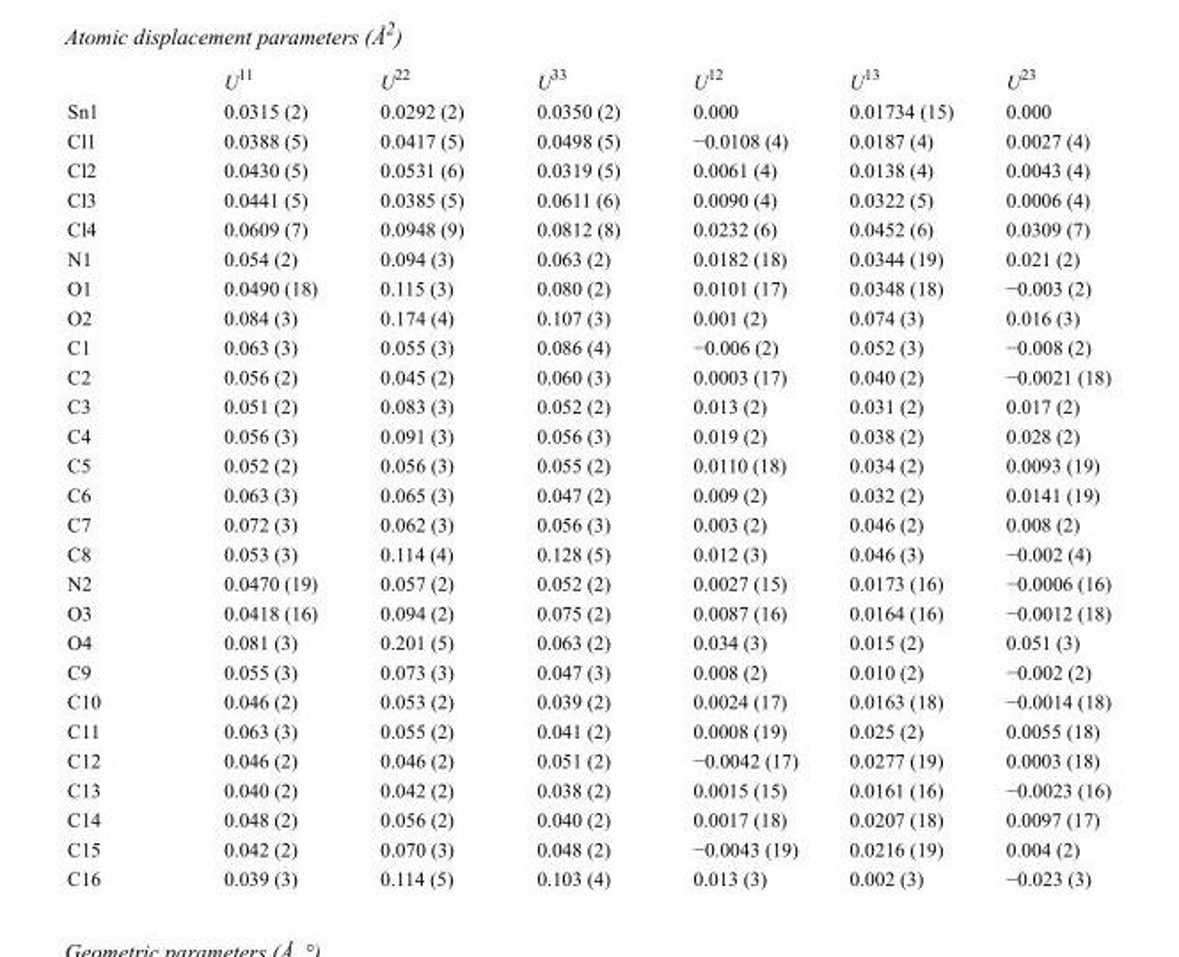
<table><thead><tr><td></td><td>U<sup>11</sup></td><td>U<sup>22</sup></td><td>U<sup>33</sup></td><td>U<sup>12</sup></td><td>U<sup>13</sup></td><td>U<sup>23</sup></td></tr></thead><tbody><tr><td>Sn1</td><td>0.0315 (2)</td><td>0.0292 (2)</td><td>0.0350 (2)</td><td>0.000</td><td>0.01734 (15)</td><td>0.000</td></tr><tr><td>Cl1</td><td>0.0388 (5)</td><td>0.0417 (5)</td><td>0.0498 (5)</td><td>−0.0108 (4)</td><td>0.0187 (4)</td><td>0.0027 (4)</td></tr><tr><td>Cl2</td><td>0.0430 (5)</td><td>0.0531 (6)</td><td>0.0319 (5)</td><td>0.0061 (4)</td><td>0.0138 (4)</td><td>0.0043 (4)</td></tr><tr><td>Cl3</td><td>0.0441 (5)</td><td>0.0385 (5)</td><td>0.0611 (6)</td><td>0.0090 (4)</td><td>0.0322 (5)</td><td>0.0006 (4)</td></tr><tr><td>Cl4</td><td>0.0609 (7)</td><td>0.0948 (9)</td><td>0.0812 (8)</td><td>0.0232 (6)</td><td>0.0452 (6)</td><td>0.0309 (7)</td></tr><tr><td>N1</td><td>0.054 (2)</td><td>0.094 (3)</td><td>0.063 (2)</td><td>0.0182 (18)</td><td>0.0344 (19)</td><td>0.021 (2)</td></tr><tr><td>O1</td><td>0.0490 (18)</td><td>0.115 (3)</td><td>0.080 (2)</td><td>0.0101 (17)</td><td>0.0348 (18)</td><td>−0.003 (2)</td></tr><tr><td>O2</td><td>0.084 (3)</td><td>0.174 (4)</td><td>0.107 (3)</td><td>0.001 (2)</td><td>0.074 (3)</td><td>0.016 (3)</td></tr><tr><td>C1</td><td>0.063 (3)</td><td>0.055 (3)</td><td>0.086 (4)</td><td>−0.006 (2)</td><td>0.052 (3)</td><td>−0.008 (2)</td></tr><tr><td>C2</td><td>0.056 (2)</td><td>0.045 (2)</td><td>0.060 (3)</td><td>0.0003 (17)</td><td>0.040 (2)</td><td>−0.0021 (18)</td></tr><tr><td>C3</td><td>0.051 (2)</td><td>0.083 (3)</td><td>0.052 (2)</td><td>0.013 (2)</td><td>0.031 (2)</td><td>0.017 (2)</td></tr><tr><td>C4</td><td>0.056 (3)</td><td>0.091 (3)</td><td>0.056 (3)</td><td>0.019 (2)</td><td>0.038 (2)</td><td>0.028 (2)</td></tr><tr><td>C5</td><td>0.052 (2)</td><td>0.056 (3)</td><td>0.055 (2)</td><td>0.0110 (18)</td><td>0.034 (2)</td><td>0.0093 (19)</td></tr><tr><td>C6</td><td>0.063 (3)</td><td>0.065 (3)</td><td>0.047 (2)</td><td>0.009 (2)</td><td>0.032 (2)</td><td>0.0141 (19)</td></tr><tr><td>C7</td><td>0.072 (3)</td><td>0.062 (3)</td><td>0.056 (3)</td><td>0.003 (2)</td><td>0.046 (2)</td><td>0.008 (2)</td></tr><tr><td>C8</td><td>0.053 (3)</td><td>0.114 (4)</td><td>0.128 (5)</td><td>0.012 (3)</td><td>0.046 (3)</td><td>−0.002 (4)</td></tr><tr><td>N2</td><td>0.0470 (19)</td><td>0.057 (2)</td><td>0.052 (2)</td><td>0.0027 (15)</td><td>0.0173 (16)</td><td>−0.0006 (16)</td></tr><tr><td>O3</td><td>0.0418 (16)</td><td>0.094 (2)</td><td>0.075 (2)</td><td>0.0087 (16)</td><td>0.0164 (16)</td><td>−0.0012 (18)</td></tr><tr><td>O4</td><td>0.081 (3)</td><td>0.201 (5)</td><td>0.063 (2)</td><td>0.034 (3)</td><td>0.015 (2)</td><td>0.051 (3)</td></tr><tr><td>C9</td><td>0.055 (3)</td><td>0.073 (3)</td><td>0.047 (3)</td><td>0.008 (2)</td><td>0.010 (2)</td><td>−0.002 (2)</td></tr><tr><td>C10</td><td>0.046 (2)</td><td>0.053 (2)</td><td>0.039 (2)</td><td>0.0024 (17)</td><td>0.0163 (18)</td><td>−0.0014 (18)</td></tr><tr><td>C11</td><td>0.063 (3)</td><td>0.055 (2)</td><td>0.041 (2)</td><td>0.0008 (19)</td><td>0.025 (2)</td><td>0.0055 (18)</td></tr><tr><td>C12</td><td>0.046 (2)</td><td>0.046 (2)</td><td>0.051 (2)</td><td>−0.0042 (17)</td><td>0.0277 (19)</td><td>0.0003 (18)</td></tr><tr><td>C13</td><td>0.040 (2)</td><td>0.042 (2)</td><td>0.038 (2)</td><td>0.0015 (15)</td><td>0.0161 (16)</td><td>−0.0023 (16)</td></tr><tr><td>C14</td><td>0.048 (2)</td><td>0.056 (2)</td><td>0.040 (2)</td><td>0.0017 (18)</td><td>0.0207 (18)</td><td>0.0097 (17)</td></tr><tr><td>C15</td><td>0.042 (2)</td><td>0.070 (3)</td><td>0.048 (2)</td><td>−0.0043 (19)</td><td>0.0216 (19)</td><td>0.004 (2)</td></tr><tr><td>C16</td><td>0.039 (3)</td><td>0.114 (5)</td><td>0.103 (4)</td><td>0.013 (3)</td><td>0.002 (3)</td><td>−0.023 (3)</td></tr></tbody></table>